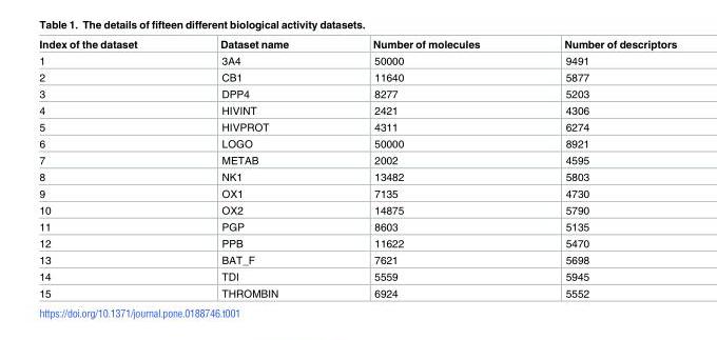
<table><thead><tr><td>Index of the dataset</td><td>Dataset name</td><td>Number of molecules</td><td>Number of descriptors</td></tr></thead><tbody><tr><td>1</td><td>3A4</td><td>50000</td><td>9491</td></tr><tr><td>2</td><td>CB1</td><td>11640</td><td>5877</td></tr><tr><td>3</td><td>DPP4</td><td>8277</td><td>5203</td></tr><tr><td>4</td><td>HIVINT</td><td>2421</td><td>4306</td></tr><tr><td>5</td><td>HIVPROT</td><td>4311</td><td>6274</td></tr><tr><td>6</td><td>LOGO</td><td>50000</td><td>8921</td></tr><tr><td>7</td><td>METAB</td><td>2002</td><td>4595</td></tr><tr><td>8</td><td>NK1</td><td>13482</td><td>5803</td></tr><tr><td>9</td><td>OX1</td><td>7135</td><td>4730</td></tr><tr><td>10</td><td>OX2</td><td>14875</td><td>5790</td></tr><tr><td>11</td><td>PGP</td><td>8603</td><td>5135</td></tr><tr><td>12</td><td>PPB</td><td>11622</td><td>5470</td></tr><tr><td>13</td><td>BAT_F</td><td>7621</td><td>5698</td></tr><tr><td>14</td><td>TDI</td><td>5559</td><td>5945</td></tr><tr><td>15</td><td>THROMBIN</td><td>6924</td><td>5552</td></tr></tbody></table>